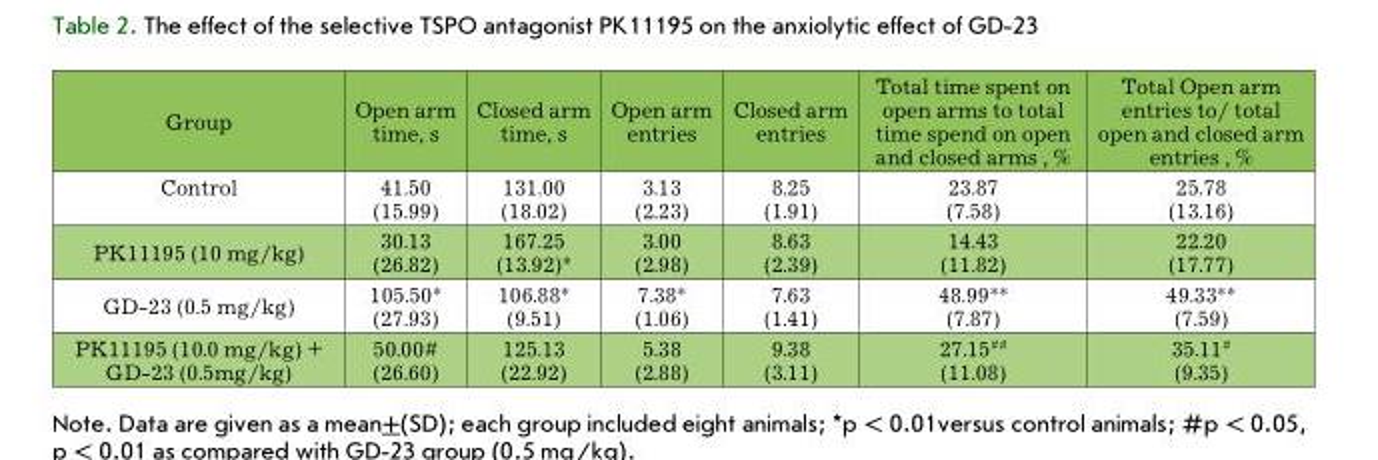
<table><thead><tr><td>Group</td><td>Open arm time, s</td><td>Closed arm time, s</td><td>Open arm entries</td><td>Closed arm entries</td><td>Total time spent on open arms to total time spend on open and closed arms , %</td><td>Total Open arm entries to/ total open and closed arm entries , %</td></tr></thead><tbody><tr><td>Control</td><td>41.50 (15.99)</td><td>131.00 (18.02)</td><td>3.13 (2.23)</td><td>8.25 (1.91)</td><td>23.87 (7.58)</td><td>25.78 (13.16)</td></tr><tr><td>PK11195 (10 mg/kg)</td><td>30.13 (26.82)</td><td>167.25 (13.92)*</td><td>3.00 (2.98)</td><td>8.63 (2.39)</td><td>14.43 (11.82)</td><td>22.20 (17.77)</td></tr><tr><td>GD-23 (0.5 mg/kg)</td><td>105.50* (27.93)</td><td>106.88* (9.51)</td><td>7.38* (1.06)</td><td>7.63 (1.41)</td><td>48.99** (7.87)</td><td>49.33** (7.59)</td></tr><tr><td>PK11195 (10.0 mg/kg) + GD-23 (0.5mg/kg)</td><td>50.00<sup>#</sup> (26.60)</td><td>125.13 (22.92)</td><td>5.38 (2.88)</td><td>9.38 (3.11)</td><td>27.15<sup>##</sup> (11.08)</td><td>35.11<sup>#</sup> (9.35)</td></tr></tbody></table>